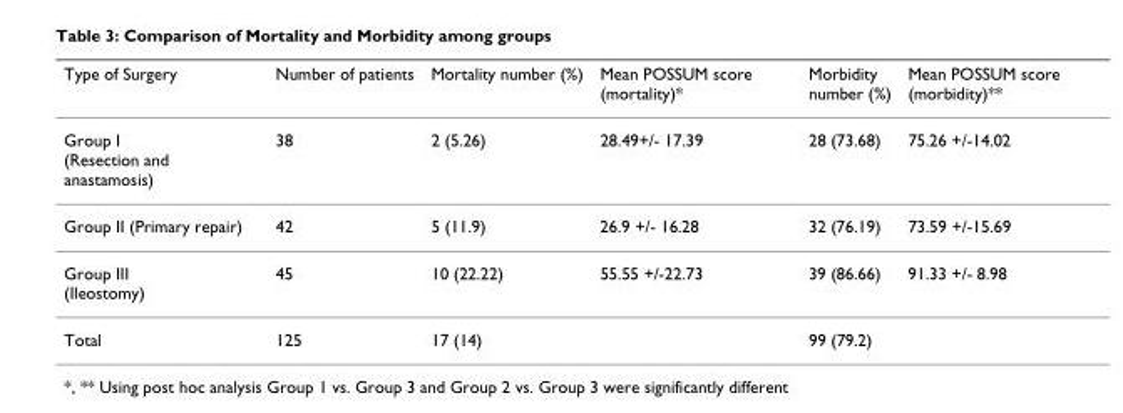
<table><thead><tr><td>Type of Surgery</td><td>Number of patients</td><td>Mortality number (%)</td><td>Mean POSSUM score (mortality)*</td><td>Morbidity number (%)</td><td>Mean POSSUM score (morbidity)**</td></tr></thead><tbody><tr><td>Group I (Resection and anastamosis)</td><td>38</td><td>2 (5.26)</td><td>28.49+/- 17.39</td><td>28 (73.68)</td><td>75.26 +/-14.02</td></tr><tr><td>Group II (Primary repair)</td><td>42</td><td>5 (11.9)</td><td>26.9 +/- 16.28</td><td>32 (76.19)</td><td>73.59 +/-15.69</td></tr><tr><td>Group III (Ileostomy)</td><td>45</td><td>10 (22.22)</td><td>55.55 +/-22.73</td><td>39 (86.66)</td><td>91.33 +/- 8.98</td></tr><tr><td>Total</td><td>125</td><td>17 (14)</td><td></td><td>99 (79.2)</td><td></td></tr></tbody></table>